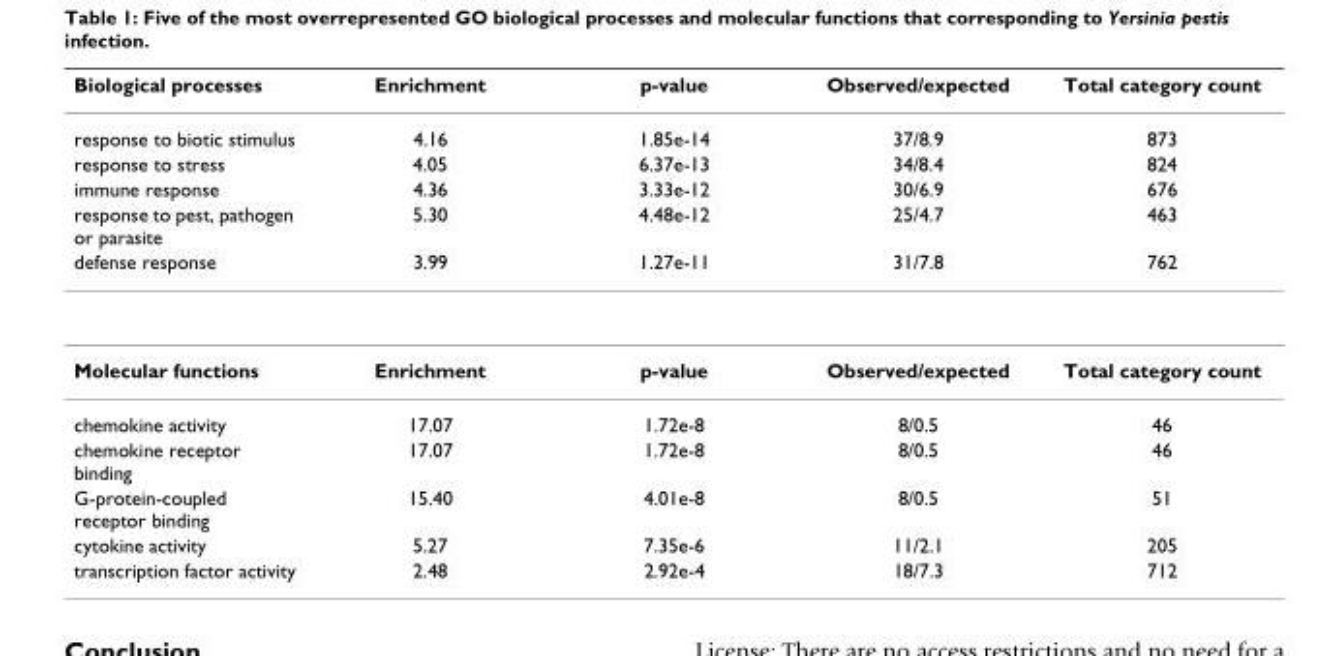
<table><thead><tr><td>Biological processes</td><td>Enrichment</td><td>p-value</td><td>Observed/expected</td><td>Total category count</td></tr></thead><tbody><tr><td>response to biotic stimulus</td><td>4.16</td><td>1.85e-14</td><td>37/8.9</td><td>873</td></tr><tr><td>response to stress</td><td>4.05</td><td>6.37e-13</td><td>34/8.4</td><td>824</td></tr><tr><td>immune response</td><td>4.36</td><td>3.33e-12</td><td>30/6.9</td><td>676</td></tr><tr><td>response to pest, pathogen or parasite</td><td>5.30</td><td>4.48e-12</td><td>25/4.7</td><td>463</td></tr><tr><td>defense response</td><td>3.99</td><td>1.27e-11</td><td>31/7.8</td><td>762</td></tr><tr><td>Molecular functions</td><td>Enrichment</td><td>p-value</td><td>Observed/expected</td><td>Total category count</td></tr><tr><td>chemokine activity</td><td>17.07</td><td>1.72e-8</td><td>8/0.5</td><td>46</td></tr><tr><td>chemokine receptor binding</td><td>17.07</td><td>1.72e-8</td><td>8/0.5</td><td>46</td></tr><tr><td>G-protein-coupled receptor binding</td><td>15.40</td><td>4.01e-8</td><td>8/0.5</td><td>51</td></tr><tr><td>cytokine activity</td><td>5.27</td><td>7.35e-6</td><td>11/2.1</td><td>205</td></tr><tr><td>transcription factor activity</td><td>2.48</td><td>2.92e-4</td><td>18/7.3</td><td>712</td></tr></tbody></table>